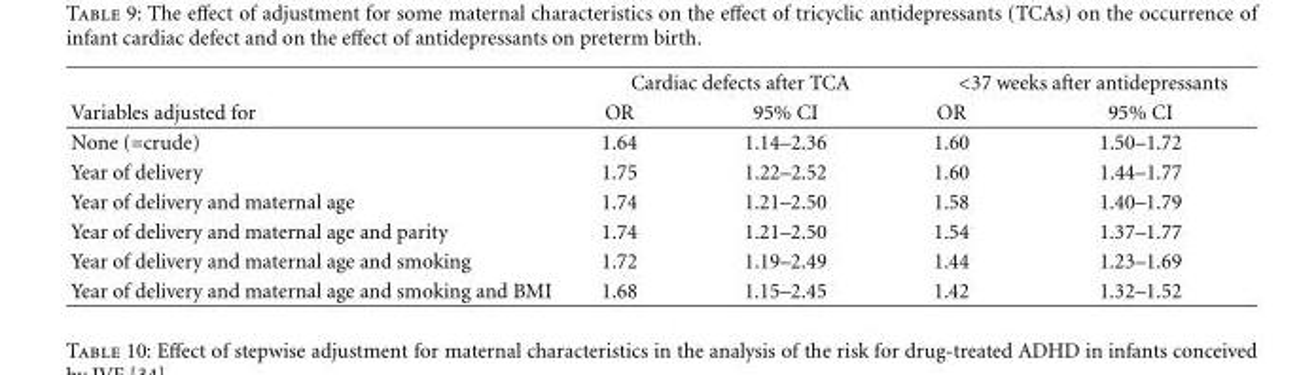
<table><thead><tr><td rowspan="2">Variables adjusted for</td><td colspan="2">Cardiac defects after TCA</td><td colspan="2">&lt;37 weeks after antidepressants</td></tr><tr><td>OR</td><td>95% CI</td><td>OR</td><td>95% CI</td></tr></thead><tbody><tr><td>None (=crude)</td><td>1.64</td><td>1.14–2.36</td><td>1.60</td><td>1.50–1.72</td></tr><tr><td>Year of delivery</td><td>1.75</td><td>1.22–2.52</td><td>1.60</td><td>1.44–1.77</td></tr><tr><td>Year of delivery and maternal age</td><td>1.74</td><td>1.21–2.50</td><td>1.58</td><td>1.40–1.79</td></tr><tr><td>Year of delivery and maternal age and parity</td><td>1.74</td><td>1.21–2.50</td><td>1.54</td><td>1.37–1.77</td></tr><tr><td>Year of delivery and maternal age and smoking</td><td>1.72</td><td>1.19–2.49</td><td>1.44</td><td>1.23–1.69</td></tr><tr><td>Year of delivery and maternal age and smoking and BMI</td><td>1.68</td><td>1.15–2.45</td><td>1.42</td><td>1.32–1.52</td></tr></tbody></table>